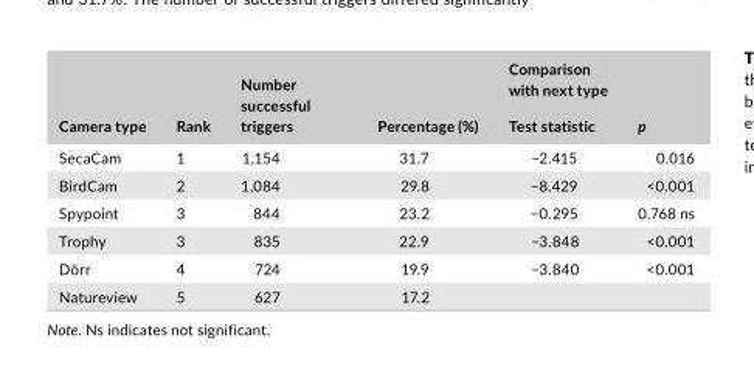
<table><thead><tr><td rowspan="2">Camera type</td><td rowspan="2">Rank</td><td rowspan="2">Number successful triggers</td><td rowspan="2">Percentage (%)</td><td rowspan="2">Comparison with next type Test statistic</td><td rowspan="2">p</td></tr><tr></tr></thead><tbody><tr><td>SecaCam</td><td>1</td><td>1,154</td><td>31.7</td><td>−2.415</td><td>0.016</td></tr><tr><td>BirdCam</td><td>2</td><td>1,084</td><td>29.8</td><td>−8.429</td><td>&lt;0.001</td></tr><tr><td>Spypoint</td><td>3</td><td>844</td><td>23.2</td><td>−0.295</td><td>0.768 ns</td></tr><tr><td>Trophy</td><td>3</td><td>835</td><td>22.9</td><td>−3.848</td><td>&lt;0.001</td></tr><tr><td>Dörr</td><td>4</td><td>724</td><td>19.9</td><td>−3.840</td><td>&lt;0.001</td></tr><tr><td>Natureview</td><td>5</td><td>627</td><td>17.2</td><td></td><td></td></tr></tbody></table>